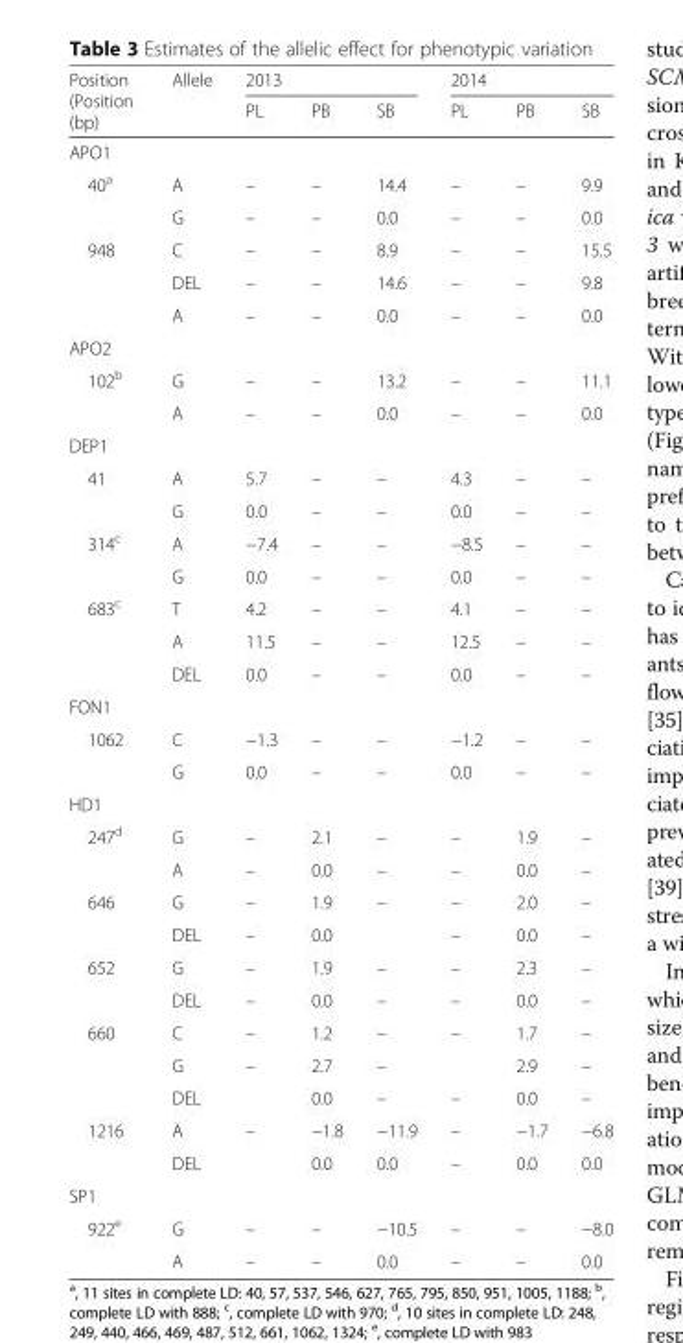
<table><thead><tr><td rowspan="2">Position (Position (bp)</td><td rowspan="2">Allele</td><td colspan="3">2013</td><td colspan="3">2014</td></tr><tr><td>PL</td><td>PB</td><td>SB</td><td>PL</td><td>PB</td><td>SB</td></tr></thead><tbody><tr><td colspan="8">APO1</td></tr><tr><td rowspan="2">40<sup>a</sup></td><td>A</td><td>–</td><td>–</td><td>14.4</td><td>–</td><td>–</td><td>9.9</td></tr><tr><td>G</td><td>–</td><td>–</td><td>0.0</td><td>–</td><td>–</td><td>0.0</td></tr><tr><td rowspan="3">948</td><td>C</td><td>–</td><td>–</td><td>8.9</td><td>–</td><td>–</td><td>15.5</td></tr><tr><td>DEL</td><td>–</td><td>–</td><td>14.6</td><td>–</td><td>–</td><td>9.8</td></tr><tr><td>A</td><td>–</td><td>–</td><td>0.0</td><td>–</td><td>–</td><td>0.0</td></tr><tr><td colspan="8">APO2</td></tr><tr><td rowspan="2">102<sup>b</sup></td><td>G</td><td>–</td><td>–</td><td>13.2</td><td>–</td><td>–</td><td>11.1</td></tr><tr><td>A</td><td>–</td><td>–</td><td>0.0</td><td>–</td><td>–</td><td>0.0</td></tr><tr><td colspan="8">DEP1</td></tr><tr><td rowspan="2">41</td><td>A</td><td>5.7</td><td>–</td><td>–</td><td>4.3</td><td>–</td><td>–</td></tr><tr><td>G</td><td>0.0</td><td>–</td><td>–</td><td>0.0</td><td>–</td><td>–</td></tr><tr><td rowspan="2">314<sup>c</sup></td><td>A</td><td>−7.4</td><td>–</td><td>–</td><td>−8.5</td><td>–</td><td>–</td></tr><tr><td>G</td><td>0.0</td><td>–</td><td>–</td><td>0.0</td><td>–</td><td>–</td></tr><tr><td rowspan="3">683<sup>c</sup></td><td>T</td><td>4.2</td><td>–</td><td>–</td><td>4.1</td><td>–</td><td>–</td></tr><tr><td>A</td><td>11.5</td><td>–</td><td>–</td><td>12.5</td><td>–</td><td>–</td></tr><tr><td>DEL</td><td>0.0</td><td>–</td><td>–</td><td>0.0</td><td>–</td><td>–</td></tr><tr><td colspan="8">FON1</td></tr><tr><td rowspan="2">1062</td><td>C</td><td>−1.3</td><td>–</td><td>–</td><td>−1.2</td><td>–</td><td>–</td></tr><tr><td>G</td><td>0.0</td><td>–</td><td>–</td><td>0.0</td><td>–</td><td>–</td></tr><tr><td colspan="8">HD1</td></tr><tr><td rowspan="2">247<sup>d</sup></td><td>G</td><td>–</td><td>2.1</td><td>–</td><td>–</td><td>1.9</td><td>–</td></tr><tr><td>A</td><td>–</td><td>0.0</td><td>–</td><td>–</td><td>0.0</td><td>–</td></tr><tr><td rowspan="2">646</td><td>G</td><td>–</td><td>1.9</td><td>–</td><td>–</td><td>2.0</td><td>–</td></tr><tr><td>DEL</td><td>–</td><td>0.0</td><td></td><td>–</td><td>0.0</td><td>–</td></tr><tr><td rowspan="2">652</td><td>G</td><td>–</td><td>1.9</td><td>–</td><td>–</td><td>2.3</td><td>–</td></tr><tr><td>DEL</td><td>–</td><td>0.0</td><td>–</td><td>–</td><td>0.0</td><td>–</td></tr><tr><td rowspan="3">660</td><td>C</td><td>–</td><td>1.2</td><td>–</td><td>–</td><td>1.7</td><td>–</td></tr><tr><td>G</td><td>–</td><td>2.7</td><td>–</td><td></td><td>2.9</td><td>–</td></tr><tr><td>DEL</td><td></td><td>0.0</td><td>–</td><td>–</td><td>0.0</td><td>–</td></tr><tr><td rowspan="2">1216</td><td>A</td><td>–</td><td>−1.8</td><td>−11.9</td><td>–</td><td>−1.7</td><td>−6.8</td></tr><tr><td>DEL</td><td></td><td>0.0</td><td>0.0</td><td>–</td><td>0.0</td><td>0.0</td></tr><tr><td colspan="8">SP1</td></tr><tr><td rowspan="2">922<sup>e</sup></td><td>G</td><td>–</td><td>–</td><td>−10.5</td><td>–</td><td>–</td><td>−8.0</td></tr><tr><td>A</td><td>–</td><td>–</td><td>0.0</td><td>–</td><td>–</td><td>0.0</td></tr></tbody></table>